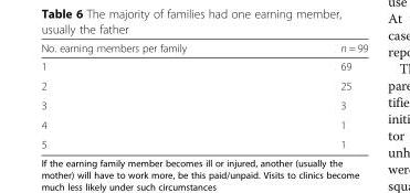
<table><thead><tr><td>No. earning members per family</td><td>n = 99</td></tr></thead><tbody><tr><td>1</td><td>69</td></tr><tr><td>2</td><td>25</td></tr><tr><td>3</td><td>3</td></tr><tr><td>4</td><td>1</td></tr><tr><td>5</td><td>1</td></tr></tbody></table>